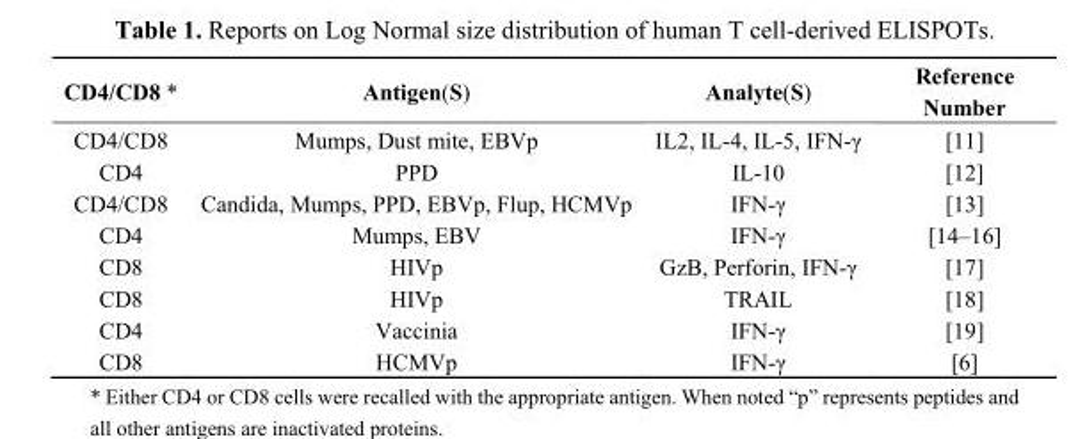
<table><thead><tr><td>CD4/CD8 *</td><td>Antigen(S)</td><td>Analyte(S)</td><td>Reference Number</td></tr></thead><tbody><tr><td>CD4/CD8</td><td>Mumps, Dust mite, EBVp</td><td>IL2, IL-4, IL-5, IFN-γ</td><td>[11]</td></tr><tr><td>CD4</td><td>PPD</td><td>IL-10</td><td>[12]</td></tr><tr><td>CD4/CD8</td><td>Candida, Mumps, PPD, EBVp, Flup, HCMVp</td><td>IFN-γ</td><td>[13]</td></tr><tr><td>CD4</td><td>Mumps, EBV</td><td>IFN-γ</td><td>[14–16]</td></tr><tr><td>CD8</td><td>HIVp</td><td>GzB, Perforin, IFN-γ</td><td>[17]</td></tr><tr><td>CD8</td><td>HIVp</td><td>TRAIL</td><td>[18]</td></tr><tr><td>CD4</td><td>Vaccinia</td><td>IFN-γ</td><td>[19]</td></tr><tr><td>CD8</td><td>HCMVp</td><td>IFN-γ</td><td>[6]</td></tr></tbody></table>